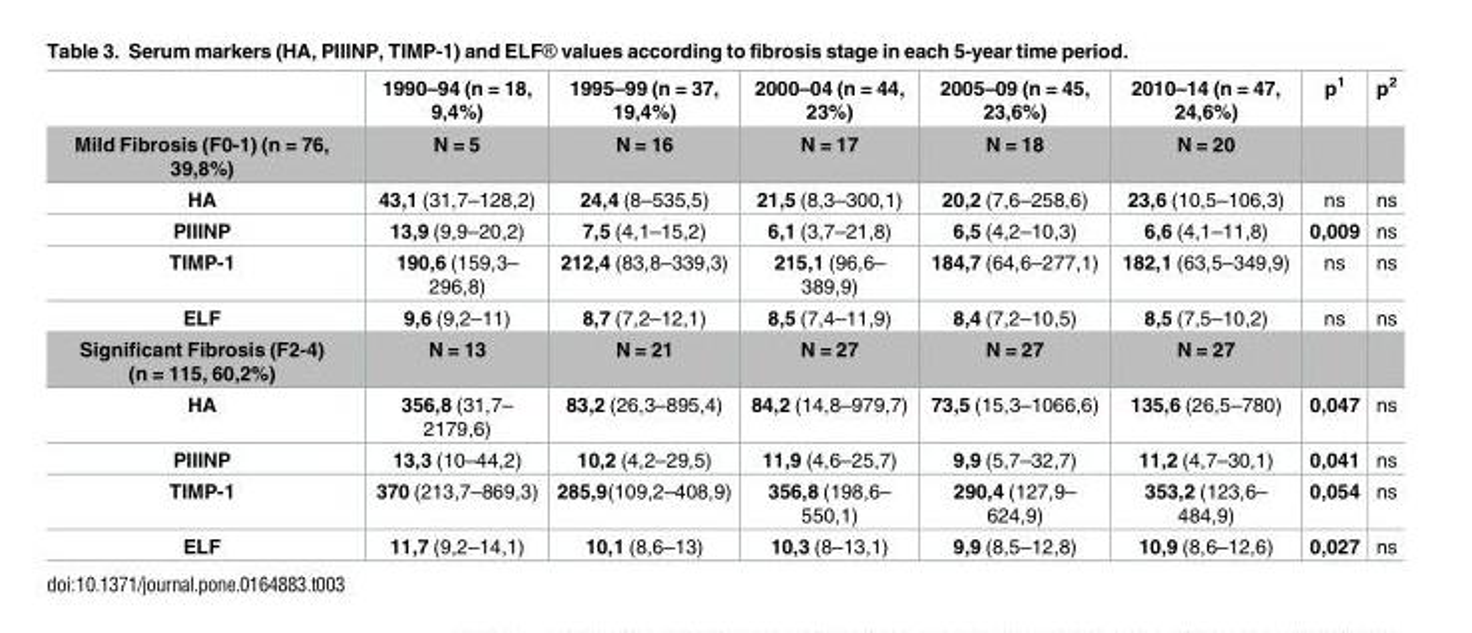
<table><thead><tr><td></td><td>1990–94 (n = 18, 9,4%)</td><td>1995–99 (n = 37, 19,4%)</td><td>2000–04 (n = 44, 23%)</td><td>2005–09 (n = 45, 23,6%)</td><td>2010–14 (n = 47, 24,6%)</td><td>p<sup>1</sup></td><td>p<sup>2</sup></td></tr></thead><tbody><tr><td>Mild Fibrosis (F0-1) (n = 76, 39,8%)</td><td>N = 5</td><td>N = 16</td><td>N = 17</td><td>N = 18</td><td>N = 20</td><td></td><td></td></tr><tr><td>HA</td><td>43,1 (31,7–128,2)</td><td>24,4 (8–535,5)</td><td>21,5 (8,3–300,1)</td><td>20,2 (7,6–258,6)</td><td>23,6 (10,5–106,3)</td><td>ns</td><td>ns</td></tr><tr><td>PIIINP</td><td>13,9 (9,9–20,2)</td><td>7,5 (4,1–15,2)</td><td>6,1 (3,7–21,8)</td><td>6,5 (4,2–10,3)</td><td>6,6 (4,1–11,8)</td><td>0,009</td><td>ns</td></tr><tr><td>TIMP-1</td><td>190,6 (159,3– 296,8)</td><td>212,4 (83,8–339,3)</td><td>215,1 (96,6– 389,9)</td><td>184,7 (64,6–277,1)</td><td>182,1 (63,5–349,9)</td><td>ns</td><td>ns</td></tr><tr><td>ELF</td><td>9,6 (9,2–11)</td><td>8,7 (7,2–12,1)</td><td>8,5 (7,4–11,9)</td><td>8,4 (7,2–10,5)</td><td>8,5 (7,5–10,2)</td><td>ns</td><td>ns</td></tr><tr><td>Significant Fibrosis (F2-4) (n = 115, 60,2%)</td><td>N = 13</td><td>N = 21</td><td>N = 27</td><td>N = 27</td><td>N = 27</td><td></td><td></td></tr><tr><td>HA</td><td>356,8 (31,7– 2179,6)</td><td>83,2 (26,3–895,4)</td><td>84,2 (14,8–979,7)</td><td>73,5 (15,3–1066,6)</td><td>135,6 (26,5–780)</td><td>0,047</td><td>ns</td></tr><tr><td>PIIINP</td><td>13,3 (10–44,2)</td><td>10,2 (4,2–29,5)</td><td>11,9 (4,6–25,7)</td><td>9,9 (5,7–32,7)</td><td>11,2 (4,7–30,1)</td><td>0,041</td><td>ns</td></tr><tr><td>TIMP-1</td><td>370 (213,7–869,3)</td><td>285,9(109,2–408,9)</td><td>356,8 (198,6– 550,1)</td><td>290,4 (127,9– 624,9)</td><td>353,2 (123,6– 484,9)</td><td>0,054</td><td>ns</td></tr><tr><td>ELF</td><td>11,7 (9,2–14,1)</td><td>10,1 (8,6–13)</td><td>10,3 (8–13,1)</td><td>9,9 (8,5–12,8)</td><td>10,9 (8,6–12,6)</td><td>0,027</td><td>ns</td></tr></tbody></table>